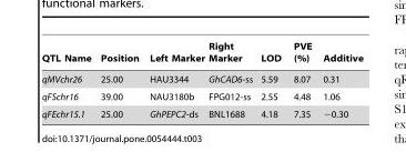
<table><thead><tr><td>QTL Name</td><td>Position</td><td>Left Marker</td><td>Right Marker</td><td>LOD</td><td>PVE (%)</td><td>Additive</td></tr></thead><tbody><tr><td>qMVchr26</td><td>25.00</td><td>HAU3344</td><td>GhCAD6-ss</td><td>5.59</td><td>8.07</td><td>0.31</td></tr><tr><td>qFSchr16</td><td>39.00</td><td>NAU3180b</td><td>FPG012-ss</td><td>2.55</td><td>4.48</td><td>1.06</td></tr><tr><td>qFEchr15.1</td><td>25.00</td><td>GhPEPC2-ds</td><td>BNL1688</td><td>4.18</td><td>7.35</td><td>−0.30</td></tr></tbody></table>